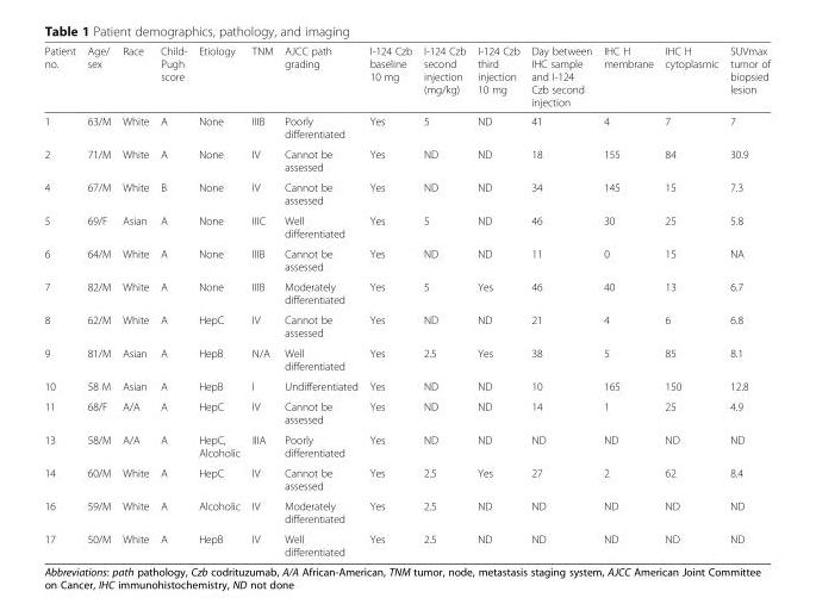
<table><thead><tr><td>Patient no.</td><td>Age/ sex</td><td>Race</td><td>Child- Pugh score</td><td>Etiology</td><td>TNM</td><td>AJCC path grading</td><td>I-124 Czb baseline 10 mg</td><td>I-124 Czb second injection (mg/kg)</td><td>I-124 Czb third injection 10 mg</td><td>Day between IHC sample and I-124 Czb second injection</td><td>IHC H membrane</td><td>IHC H cytoplasmic</td><td>SUVmax tumor of biopsied lesion</td></tr></thead><tbody><tr><td>1</td><td>63/M</td><td>White</td><td>A</td><td>None</td><td>IIIB</td><td>Poorly differentiated</td><td>Yes</td><td>5</td><td>ND</td><td>41</td><td>4</td><td>7</td><td>7</td></tr><tr><td>2</td><td>71/M</td><td>White</td><td>A</td><td>None</td><td>IV</td><td>Cannot be assessed</td><td>Yes</td><td>ND</td><td>ND</td><td>18</td><td>155</td><td>84</td><td>30.9</td></tr><tr><td>4</td><td>67/M</td><td>White</td><td>B</td><td>None</td><td>IV</td><td>Cannot be assessed</td><td>Yes</td><td>ND</td><td>ND</td><td>34</td><td>145</td><td>15</td><td>7.3</td></tr><tr><td>5</td><td>69/F</td><td>Asian</td><td>A</td><td>None</td><td>IIIC</td><td>Well differentiated</td><td>Yes</td><td>5</td><td>ND</td><td>46</td><td>30</td><td>25</td><td>5.8</td></tr><tr><td>6</td><td>64/M</td><td>White</td><td>A</td><td>None</td><td>IIIB</td><td>Cannot be assessed</td><td>Yes</td><td>ND</td><td>ND</td><td>11</td><td>0</td><td>15</td><td>NA</td></tr><tr><td>7</td><td>82/M</td><td>White</td><td>A</td><td>None</td><td>IIIB</td><td>Moderately differentiated</td><td>Yes</td><td>5</td><td>Yes</td><td>46</td><td>40</td><td>13</td><td>6.7</td></tr><tr><td>8</td><td>62/M</td><td>White</td><td>A</td><td>HepC</td><td>IV</td><td>Cannot be assessed</td><td>Yes</td><td>ND</td><td>ND</td><td>21</td><td>4</td><td>6</td><td>6.8</td></tr><tr><td>9</td><td>81/M</td><td>Asian</td><td>A</td><td>HepB</td><td>N/A</td><td>Well differentiated</td><td>Yes</td><td>2.5</td><td>Yes</td><td>38</td><td>5</td><td>85</td><td>8.1</td></tr><tr><td>10</td><td>58 M</td><td>Asian</td><td>A</td><td>HepB</td><td>I</td><td>Undifferentiated</td><td>Yes</td><td>ND</td><td>ND</td><td>10</td><td>165</td><td>150</td><td>12.8</td></tr><tr><td>11</td><td>68/F</td><td>A/A</td><td>A</td><td>HepC</td><td>IV</td><td>Cannot be assessed</td><td>Yes</td><td>ND</td><td>ND</td><td>14</td><td>1</td><td>25</td><td>4.9</td></tr><tr><td>13</td><td>58/M</td><td>A/A</td><td>A</td><td>HepC, Alcoholic</td><td>IIIA</td><td>Poorly differentiated</td><td>Yes</td><td>ND</td><td>ND</td><td>ND</td><td>ND</td><td>ND</td><td>ND</td></tr><tr><td>14</td><td>60/M</td><td>White</td><td>A</td><td>HepC</td><td>IV</td><td>Cannot be assessed</td><td>Yes</td><td>2.5</td><td>Yes</td><td>27</td><td>2</td><td>62</td><td>8.4</td></tr><tr><td>16</td><td>59/M</td><td>White</td><td>A</td><td>Alcoholic</td><td>IV</td><td>Moderately differentiated</td><td>Yes</td><td>2.5</td><td>ND</td><td>ND</td><td>ND</td><td>ND</td><td>ND</td></tr><tr><td>17</td><td>50/M</td><td>White</td><td>A</td><td>HepB</td><td>IV</td><td>Well differentiated</td><td>Yes</td><td>2.5</td><td>ND</td><td>ND</td><td>ND</td><td>ND</td><td>ND</td></tr></tbody></table>